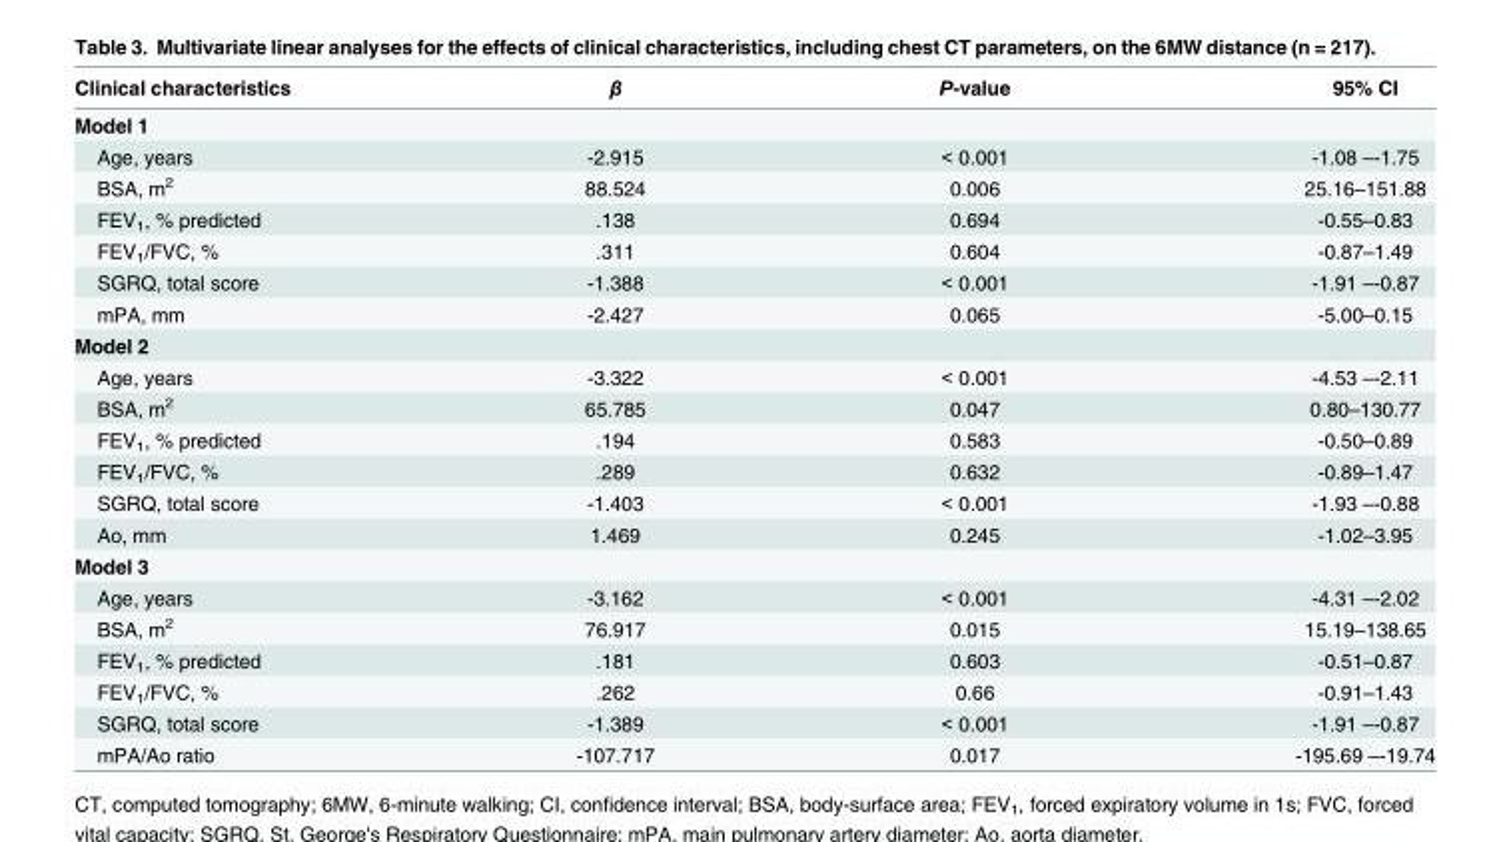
<table><thead><tr><td>Clinical characteristics</td><td>β</td><td>P-value</td><td>95% CI</td></tr></thead><tbody><tr><td colspan="4">Model 1</td></tr><tr><td>Age, years</td><td>-2.915</td><td>&lt; 0.001</td><td>-1.08 –-1.75</td></tr><tr><td>BSA, m<sup>2</sup></td><td>88.524</td><td>0.006</td><td>25.16–151.88</td></tr><tr><td>FEV<sub>1</sub>, % predicted</td><td>.138</td><td>0.694</td><td>-0.55–0.83</td></tr><tr><td>FEV<sub>1</sub>/FVC, %</td><td>.311</td><td>0.604</td><td>-0.87–1.49</td></tr><tr><td>SGRQ, total score</td><td>-1.388</td><td>&lt; 0.001</td><td>-1.91 –-0.87</td></tr><tr><td>mPA, mm</td><td>-2.427</td><td>0.065</td><td>-5.00–0.15</td></tr><tr><td colspan="4">Model 2</td></tr><tr><td>Age, years</td><td>-3.322</td><td>&lt; 0.001</td><td>-4.53 –-2.11</td></tr><tr><td>BSA, m<sup>2</sup></td><td>65.785</td><td>0.047</td><td>0.80–130.77</td></tr><tr><td>FEV<sub>1</sub>, % predicted</td><td>.194</td><td>0.583</td><td>-0.50–0.89</td></tr><tr><td>FEV<sub>1</sub>/FVC, %</td><td>.289</td><td>0.632</td><td>-0.89–1.47</td></tr><tr><td>SGRQ, total score</td><td>-1.403</td><td>&lt; 0.001</td><td>-1.93 –-0.88</td></tr><tr><td>Ao, mm</td><td>1.469</td><td>0.245</td><td>-1.02–3.95</td></tr><tr><td colspan="4">Model 3</td></tr><tr><td>Age, years</td><td>-3.162</td><td>&lt; 0.001</td><td>-4.31 –-2.02</td></tr><tr><td>BSA, m<sup>2</sup></td><td>76.917</td><td>0.015</td><td>15.19–138.65</td></tr><tr><td>FEV<sub>1</sub>, % predicted</td><td>.181</td><td>0.603</td><td>-0.51–0.87</td></tr><tr><td>FEV<sub>1</sub>/FVC, %</td><td>.262</td><td>0.66</td><td>-0.91–1.43</td></tr><tr><td>SGRQ, total score</td><td>-1.389</td><td>&lt; 0.001</td><td>-1.91 –-0.87</td></tr><tr><td>mPA/Ao ratio</td><td>-107.717</td><td>0.017</td><td>-195.69 –-19.74</td></tr></tbody></table>